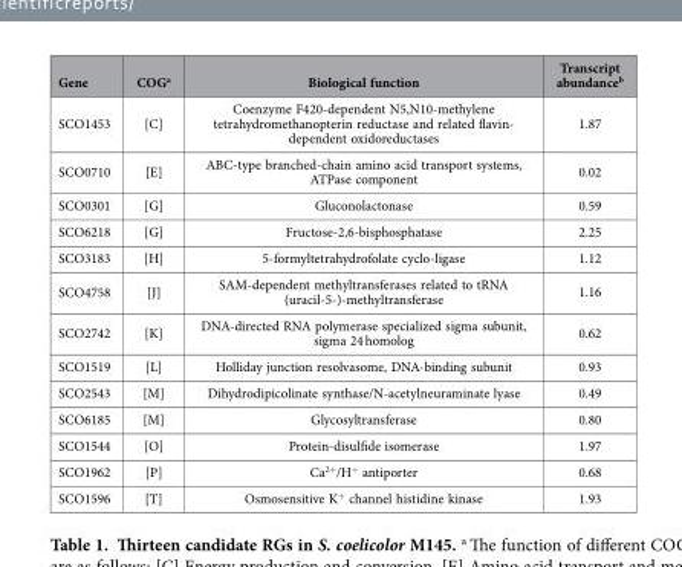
<table><thead><tr><td>Gene</td><td>COG<sup>a</sup></td><td>Biological function</td><td>Transcript abundance<sup>b</sup></td></tr></thead><tbody><tr><td>SCO1453</td><td>[C]</td><td>Coenzyme F420-dependent N5,N10-methylene tetrahydromethanopterin reductase and related flavin- dependent oxidoreductases</td><td>1.87</td></tr><tr><td>SCO0710</td><td>[E]</td><td>ABC-type branched-chain amino acid transport systems, ATPase component</td><td>0.02</td></tr><tr><td>SCO0301</td><td>[G]</td><td>Gluconolactonase</td><td>0.59</td></tr><tr><td>SCO6218</td><td>[G]</td><td>Fructose-2,6-bisphosphatase</td><td>2.25</td></tr><tr><td>SCO3183</td><td>[H]</td><td>5-formyltetrahydrofolate cyclo-ligase</td><td>1.12</td></tr><tr><td>SCO4758</td><td>[J]</td><td>SAM-dependent methyltransferases related to tRNA (uracil-5-)-methyltransferase</td><td>1.16</td></tr><tr><td>SCO2742</td><td>[K]</td><td>DNA-directed RNA polymerase specialized sigma subunit, sigma 24 homolog</td><td>0.62</td></tr><tr><td>SCO1519</td><td>[L]</td><td>Holliday junction resolvasome, DNA-binding subunit</td><td>0.93</td></tr><tr><td>SCO2543</td><td>[M]</td><td>Dihydrodipicolinate synthase/N-acetylneuraminate lyase</td><td>0.49</td></tr><tr><td>SCO6185</td><td>[M]</td><td>Glycosyltransferase</td><td>0.80</td></tr><tr><td>SCO1544</td><td>[O]</td><td>Protein-disulfide isomerase</td><td>1.97</td></tr><tr><td>SCO1962</td><td>[P]</td><td>Ca<sup>2+</sup>/H<sup>+</sup> antiporter</td><td>0.68</td></tr><tr><td>SCO1596</td><td>[T]</td><td>Osmosensitive K<sup>+</sup> channel histidine kinase</td><td>1.93</td></tr></tbody></table>